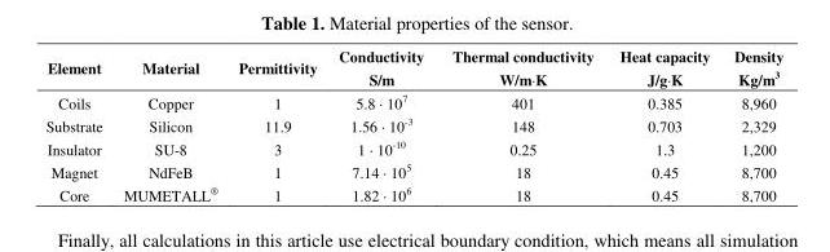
<table><thead><tr><td>Element</td><td>Material</td><td>Permittivity</td><td>Conductivity S/m</td><td>Thermal conductivity W/m·K</td><td>Heat capacity J/g·K</td><td>Density Kg/m<sup>3</sup></td></tr></thead><tbody><tr><td>Coils</td><td>Copper</td><td>1</td><td>5.8 · 10<sup>7</sup></td><td>401</td><td>0.385</td><td>8,960</td></tr><tr><td>Substrate</td><td>Silicon</td><td>11.9</td><td>1.56 · 10<sup>-3</sup></td><td>148</td><td>0.703</td><td>2,329</td></tr><tr><td>Insulator</td><td>SU-8</td><td>3</td><td>1 · 10<sup>-10</sup></td><td>0.25</td><td>1.3</td><td>1,200</td></tr><tr><td>Magnet</td><td>NdFeB</td><td>1</td><td>7.14 · 10<sup>5</sup></td><td>18</td><td>0.45</td><td>8,700</td></tr><tr><td>Core</td><td>MUMETALL<sup>®</sup></td><td>1</td><td>1.82 · 10<sup>6</sup></td><td>18</td><td>0.45</td><td>8,700</td></tr></tbody></table>